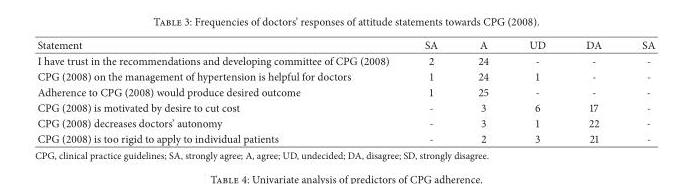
<table><thead><tr><td>Statement</td><td>SA</td><td>A</td><td>UD</td><td>DA</td><td>SA</td></tr></thead><tbody><tr><td>I have trust in the recommendations and developing committee of CPG (2008)</td><td>2</td><td>24</td><td>-</td><td>-</td><td>-</td></tr><tr><td>CPG (2008) on the management of hypertension is helpful for doctors</td><td>1</td><td>24</td><td>1</td><td>-</td><td>-</td></tr><tr><td>Adherence to CPG (2008) would produce desired outcome</td><td>1</td><td>25</td><td>-</td><td>-</td><td>-</td></tr><tr><td>CPG (2008) is motivated by desire to cut cost</td><td>-</td><td>3</td><td>6</td><td>17</td><td>-</td></tr><tr><td>CPG (2008) decreases doctors’ autonomy</td><td>-</td><td>3</td><td>1</td><td>22</td><td>-</td></tr><tr><td>CPG (2008) is too rigid to apply to individual patients</td><td>-</td><td>2</td><td>3</td><td>21</td><td>-</td></tr></tbody></table>